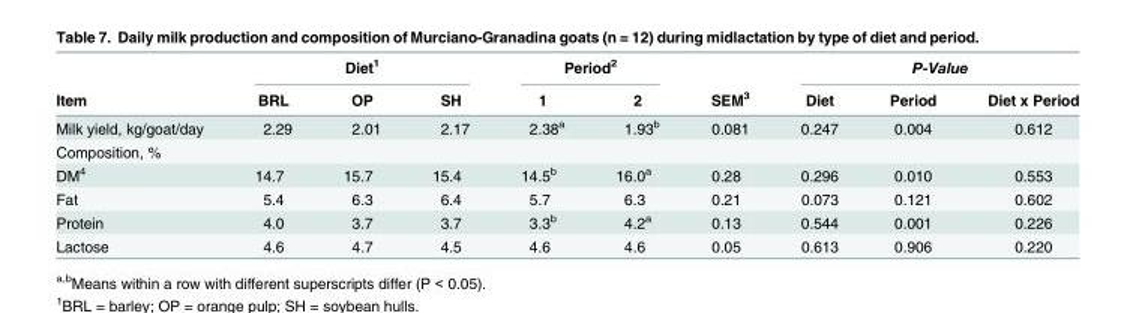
<table><thead><tr><td rowspan="2">Item</td><td colspan="3">Diet<sup>1</sup></td><td colspan="2">Period<sup>2</sup></td><td rowspan="2">SEM<sup>3</sup></td><td colspan="3">P-Value</td></tr><tr><td>BRL</td><td>OP</td><td>SH</td><td>1</td><td>2</td><td>Diet</td><td>Period</td><td>Diet x Period</td></tr></thead><tbody><tr><td>Milk yield, kg/goat/day</td><td>2.29</td><td>2.01</td><td>2.17</td><td>2.38<sup>a</sup></td><td>1.93<sup>b</sup></td><td>0.081</td><td>0.247</td><td>0.004</td><td>0.612</td></tr><tr><td colspan="10">Composition, %</td></tr><tr><td>DM<sup>4</sup></td><td>14.7</td><td>15.7</td><td>15.4</td><td>14.5<sup>b</sup></td><td>16.0<sup>a</sup></td><td>0.28</td><td>0.296</td><td>0.010</td><td>0.553</td></tr><tr><td>Fat</td><td>5.4</td><td>6.3</td><td>6.4</td><td>5.7</td><td>6.3</td><td>0.21</td><td>0.073</td><td>0.121</td><td>0.602</td></tr><tr><td>Protein</td><td>4.0</td><td>3.7</td><td>3.7</td><td>3.3<sup>b</sup></td><td>4.2<sup>a</sup></td><td>0.13</td><td>0.544</td><td>0.001</td><td>0.226</td></tr><tr><td>Lactose</td><td>4.6</td><td>4.7</td><td>4.5</td><td>4.6</td><td>4.6</td><td>0.05</td><td>0.613</td><td>0.906</td><td>0.220</td></tr></tbody></table>